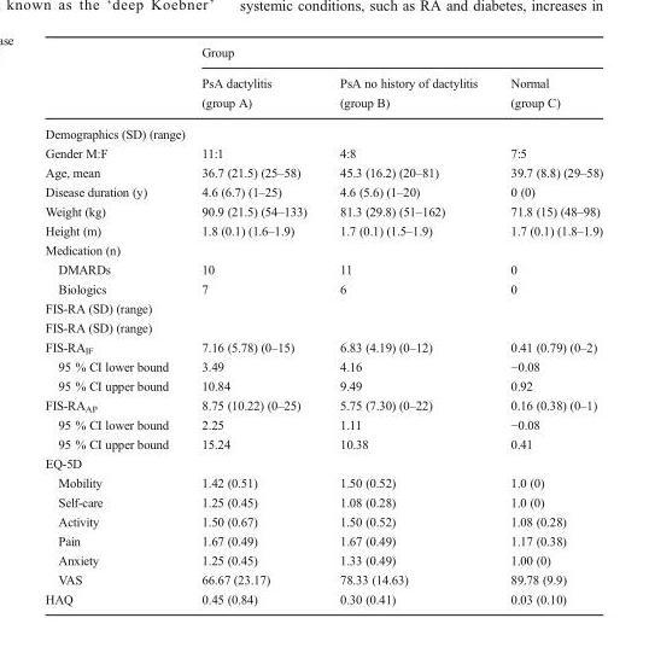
<table><thead><tr><td rowspan="2"></td><td colspan="3">Group</td></tr><tr><td>PsA dactylitis (group A)</td><td>PsA no history of dactylitis (group B)</td><td>Normal (group C)</td></tr></thead><tbody><tr><td colspan="4">Demographics (SD) (range)</td></tr><tr><td>Gender M:F</td><td>11:1</td><td>4:8</td><td>7:5</td></tr><tr><td>Age, mean</td><td>36.7 (21.5) (25–58)</td><td>45.3 (16.2) (20–81)</td><td>39.7 (8.8) (29–58)</td></tr><tr><td>Disease duration (y)</td><td>4.6 (6.7) (1–25)</td><td>4.6 (5.6) (1–20)</td><td>0 (0)</td></tr><tr><td>Weight (kg)</td><td>90.9 (21.5) (54–133)</td><td>81.3 (29.8) (51–162)</td><td>71.8 (15) (48–98)</td></tr><tr><td>Height (m)</td><td>1.8 (0.1) (1.6–1.9)</td><td>1.7 (0.1) (1.5–1.9)</td><td>1.7 (0.1) (1.8–1.9)</td></tr><tr><td colspan="4">Medication (n)</td></tr><tr><td>DMARDs</td><td>10</td><td>11</td><td>0</td></tr><tr><td>Biologics</td><td>7</td><td>6</td><td>0</td></tr><tr><td colspan="4">FIS-RA (SD) (range)</td></tr><tr><td colspan="4">FIS-RA (SD) (range)</td></tr><tr><td>FIS-RA<sub>IF</sub></td><td>7.16 (5.78) (0–15)</td><td>6.83 (4.19) (0–12)</td><td>0.41 (0.79) (0–2)</td></tr><tr><td>95 % CI lower bound</td><td>3.49</td><td>4.16</td><td>−0.08</td></tr><tr><td>95 % CI upper bound</td><td>10.84</td><td>9.49</td><td>0.92</td></tr><tr><td>FIS-RA<sub>AP</sub></td><td>8.75 (10.22) (0–25)</td><td>5.75 (7.30) (0–22)</td><td>0.16 (0.38) (0–1)</td></tr><tr><td>95 % CI lower bound</td><td>2.25</td><td>1.11</td><td>−0.08</td></tr><tr><td>95 % CI upper bound</td><td>15.24</td><td>10.38</td><td>0.41</td></tr><tr><td colspan="4">EQ-5D</td></tr><tr><td>Mobility</td><td>1.42 (0.51)</td><td>1.50 (0.52)</td><td>1.0 (0)</td></tr><tr><td>Self-care</td><td>1.25 (0.45)</td><td>1.08 (0.28)</td><td>1.0 (0)</td></tr><tr><td>Activity</td><td>1.50 (0.67)</td><td>1.50 (0.52)</td><td>1.08 (0.28)</td></tr><tr><td>Pain</td><td>1.67 (0.49)</td><td>1.67 (0.49)</td><td>1.17 (0.38)</td></tr><tr><td>Anxiety</td><td>1.25 (0.45)</td><td>1.33 (0.49)</td><td>1.00 (0)</td></tr><tr><td>VAS</td><td>66.67 (23.17)</td><td>78.33 (14.63)</td><td>89.78 (9.9)</td></tr><tr><td>HAQ</td><td>0.45 (0.84)</td><td>0.30 (0.41)</td><td>0.03 (0.10)</td></tr></tbody></table>